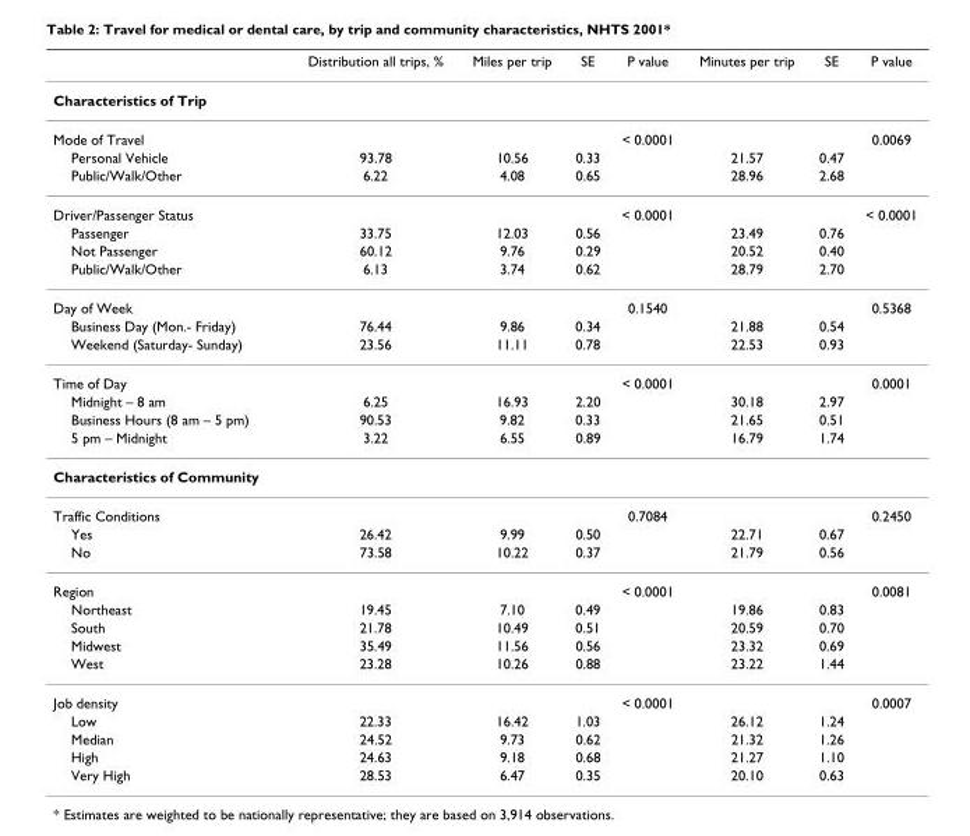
<table><thead><tr><td></td><td>Distribution all trips, %</td><td>Miles per trip</td><td>SE</td><td>P value</td><td>Minutes per trip</td><td>SE</td><td>P value</td></tr></thead><tbody><tr><td colspan="8">Characteristics of Trip</td></tr><tr><td>Mode of Travel</td><td></td><td></td><td></td><td>&lt; 0.0001</td><td></td><td></td><td>0.0069</td></tr><tr><td>Personal Vehicle</td><td>93.78</td><td>10.56</td><td>0.33</td><td></td><td>21.57</td><td>0.47</td><td></td></tr><tr><td>Public/Walk/Other</td><td>6.22</td><td>4.08</td><td>0.65</td><td></td><td>28.96</td><td>2.68</td><td></td></tr><tr><td>Driver/Passenger Status</td><td></td><td></td><td></td><td>&lt; 0.0001</td><td></td><td></td><td>&lt; 0.0001</td></tr><tr><td>Passenger</td><td>33.75</td><td>12.03</td><td>0.56</td><td></td><td>23.49</td><td>0.76</td><td></td></tr><tr><td>Not Passenger</td><td>60.12</td><td>9.76</td><td>0.29</td><td></td><td>20.52</td><td>0.40</td><td></td></tr><tr><td>Public/Walk/Other</td><td>6.13</td><td>3.74</td><td>0.62</td><td></td><td>28.79</td><td>2.70</td><td></td></tr><tr><td>Day of Week</td><td></td><td></td><td></td><td>0.1540</td><td></td><td></td><td>0.5368</td></tr><tr><td>Business Day (Mon.- Friday)</td><td>76.44</td><td>9.86</td><td>0.34</td><td></td><td>21.88</td><td>0.54</td><td></td></tr><tr><td>Weekend (Saturday- Sunday)</td><td>23.56</td><td>11.11</td><td>0.78</td><td></td><td>22.53</td><td>0.93</td><td></td></tr><tr><td>Time of Day</td><td></td><td></td><td></td><td>&lt; 0.0001</td><td></td><td></td><td>0.0001</td></tr><tr><td>Midnight – 8 am</td><td>6.25</td><td>16.93</td><td>2.20</td><td></td><td>30.18</td><td>2.97</td><td></td></tr><tr><td>Business Hours (8 am – 5 pm)</td><td>90.53</td><td>9.82</td><td>0.33</td><td></td><td>21.65</td><td>0.51</td><td></td></tr><tr><td>5 pm – Midnight</td><td>3.22</td><td>6.55</td><td>0.89</td><td></td><td>16.79</td><td>1.74</td><td></td></tr><tr><td colspan="8">Characteristics of Community</td></tr><tr><td>Traffic Conditions</td><td></td><td></td><td></td><td>0.7084</td><td></td><td></td><td>0.2450</td></tr><tr><td>Yes</td><td>26.42</td><td>9.99</td><td>0.50</td><td></td><td>22.71</td><td>0.67</td><td></td></tr><tr><td>No</td><td>73.58</td><td>10.22</td><td>0.37</td><td></td><td>21.79</td><td>0.56</td><td></td></tr><tr><td>Region</td><td></td><td></td><td></td><td>&lt; 0.0001</td><td></td><td></td><td>0.0081</td></tr><tr><td>Northeast</td><td>19.45</td><td>7.10</td><td>0.49</td><td></td><td>19.86</td><td>0.83</td><td></td></tr><tr><td>South</td><td>21.78</td><td>10.49</td><td>0.51</td><td></td><td>20.59</td><td>0.70</td><td></td></tr><tr><td>Midwest</td><td>35.49</td><td>11.56</td><td>0.56</td><td></td><td>23.32</td><td>0.69</td><td></td></tr><tr><td>West</td><td>23.28</td><td>10.26</td><td>0.88</td><td></td><td>23.22</td><td>1.44</td><td></td></tr><tr><td>Job density</td><td></td><td></td><td></td><td>&lt; 0.0001</td><td></td><td></td><td>0.0007</td></tr><tr><td>Low</td><td>22.33</td><td>16.42</td><td>1.03</td><td></td><td>26.12</td><td>1.24</td><td></td></tr><tr><td>Median</td><td>24.52</td><td>9.73</td><td>0.62</td><td></td><td>21.32</td><td>1.26</td><td></td></tr><tr><td>High</td><td>24.63</td><td>9.18</td><td>0.68</td><td></td><td>21.27</td><td>1.10</td><td></td></tr><tr><td>Very High</td><td>28.53</td><td>6.47</td><td>0.35</td><td></td><td>20.10</td><td>0.63</td><td></td></tr></tbody></table>